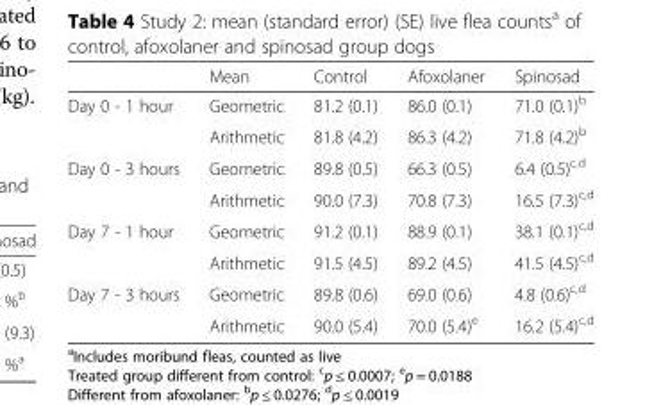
<table><thead><tr><td></td><td>Mean</td><td>Control</td><td>Afoxolaner</td><td>Spinosad</td></tr></thead><tbody><tr><td rowspan="2">Day 0 - 1 hour</td><td>Geometric</td><td>81.2 (0.1)</td><td>86.0 (0.1)</td><td>71.0 (0.1)<sup>b</sup></td></tr><tr><td>Arithmetic</td><td>81.8 (4.2)</td><td>86.3 (4.2)</td><td>71.8 (4.2)<sup>b</sup></td></tr><tr><td rowspan="2">Day 0 - 3 hours</td><td>Geometric</td><td>89.8 (0.5)</td><td>66.3 (0.5)</td><td>6.4 (0.5)<sup>c,d</sup></td></tr><tr><td>Arithmetic</td><td>90.0 (7.3)</td><td>70.8 (7.3)</td><td>16.5 (7.3)<sup>c,d</sup></td></tr><tr><td rowspan="2">Day 7 - 1 hour</td><td>Geometric</td><td>91.2 (0.1)</td><td>88.9 (0.1)</td><td>38.1 (0.1)<sup>c,d</sup></td></tr><tr><td>Arithmetic</td><td>91.5 (4.5)</td><td>89.2 (4.5)</td><td>41.5 (4.5)<sup>c,d</sup></td></tr><tr><td rowspan="2">Day 7 - 3 hours</td><td>Geometric</td><td>89.8 (0.6)</td><td>69.0 (0.6)</td><td>4.8 (0.6)<sup>c,d</sup></td></tr><tr><td>Arithmetic</td><td>90.0 (5.4)</td><td>70.0 (5.4)<sup>e</sup></td><td>16.2 (5.4)<sup>c,d</sup></td></tr></tbody></table>